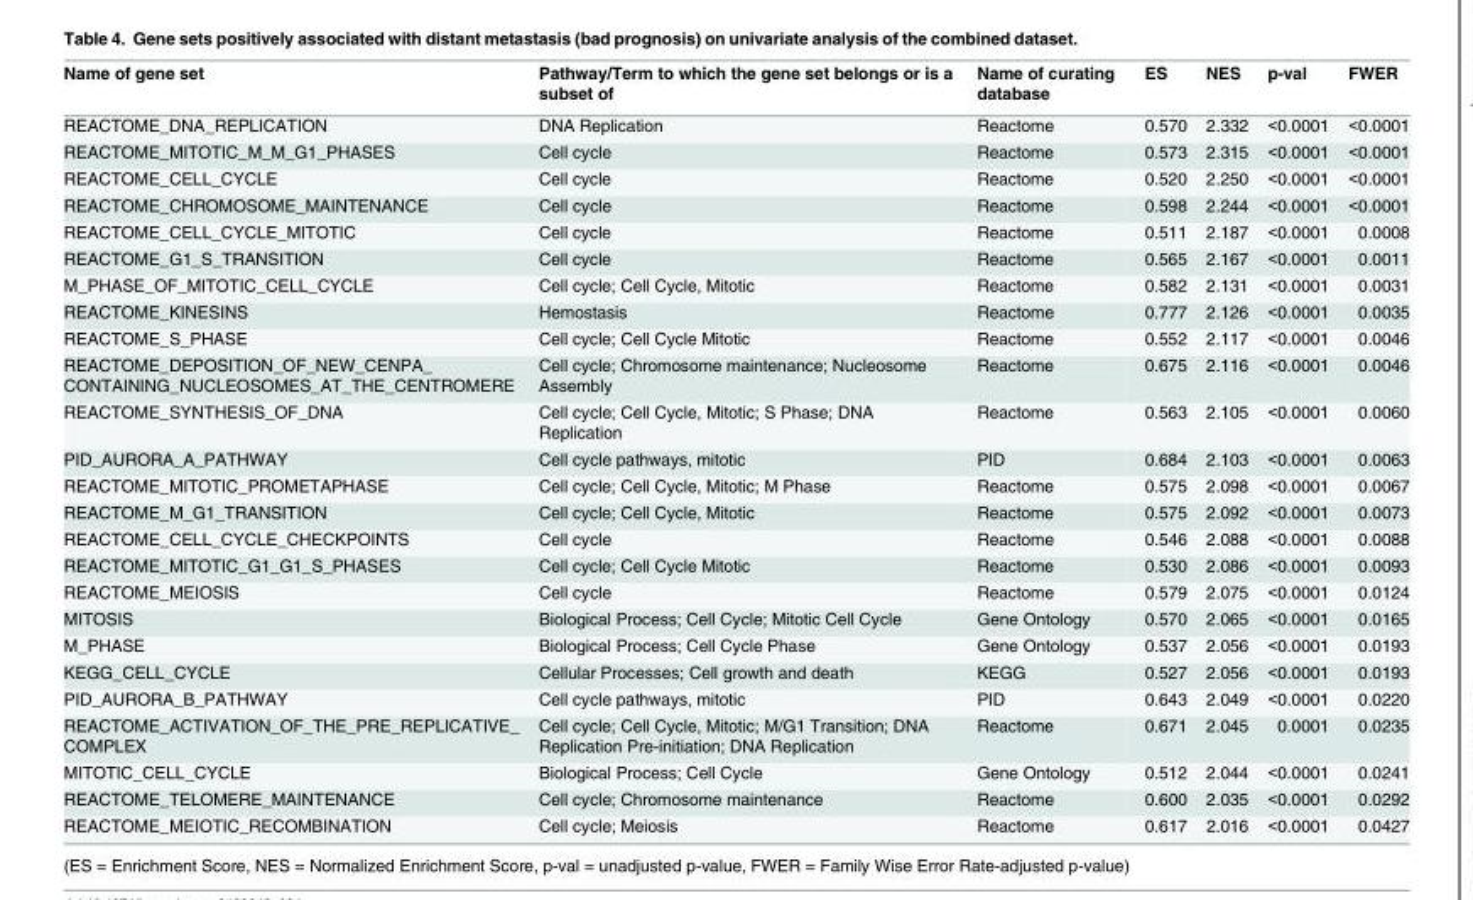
<table><thead><tr><td>Name of gene set</td><td>Pathway/Term to which the gene set belongs or is a subset of</td><td>Name of curating database</td><td>ES</td><td>NES</td><td>p-val</td><td>FWER</td></tr></thead><tbody><tr><td>REACTOME_DNA_REPLICATION</td><td>DNA Replication</td><td>Reactome</td><td>0.570</td><td>2.332</td><td>&lt;0.0001</td><td>&lt;0.0001</td></tr><tr><td>REACTOME_MITOTIC_M_M_G1_PHASES</td><td>Cell cycle</td><td>Reactome</td><td>0.573</td><td>2.315</td><td>&lt;0.0001</td><td>&lt;0.0001</td></tr><tr><td>REACTOME_CELL_CYCLE</td><td>Cell cycle</td><td>Reactome</td><td>0.520</td><td>2.250</td><td>&lt;0.0001</td><td>&lt;0.0001</td></tr><tr><td>REACTOME_CHROMOSOME_MAINTENANCE</td><td>Cell cycle</td><td>Reactome</td><td>0.598</td><td>2.244</td><td>&lt;0.0001</td><td>&lt;0.0001</td></tr><tr><td>REACTOME_CELL_CYCLE_MITOTIC</td><td>Cell cycle</td><td>Reactome</td><td>0.511</td><td>2.187</td><td>&lt;0.0001</td><td>0.0008</td></tr><tr><td>REACTOME_G1_S_TRANSITION</td><td>Cell cycle</td><td>Reactome</td><td>0.565</td><td>2.167</td><td>&lt;0.0001</td><td>0.0011</td></tr><tr><td>M_PHASE_OF_MITOTIC_CELL_CYCLE</td><td>Cell cycle; Cell Cycle, Mitotic</td><td>Reactome</td><td>0.582</td><td>2.131</td><td>&lt;0.0001</td><td>0.0031</td></tr><tr><td>REACTOME_KINESINS</td><td>Hemostasis</td><td>Reactome</td><td>0.777</td><td>2.126</td><td>&lt;0.0001</td><td>0.0035</td></tr><tr><td>REACTOME_S_PHASE</td><td>Cell cycle; Cell Cycle Mitotic</td><td>Reactome</td><td>0.552</td><td>2.117</td><td>&lt;0.0001</td><td>0.0046</td></tr><tr><td>REACTOME_DEPOSITION_OF_NEW_CENPA_ CONTAINING_NUCLEOSOMES_AT_THE_CENTROMERE</td><td>Cell cycle; Chromosome maintenance; Nucleosome Assembly</td><td>Reactome</td><td>0.675</td><td>2.116</td><td>&lt;0.0001</td><td>0.0046</td></tr><tr><td>REACTOME_SYNTHESIS_OF_DNA</td><td>Cell cycle; Cell Cycle, Mitotic; S Phase; DNA Replication</td><td>Reactome</td><td>0.563</td><td>2.105</td><td>&lt;0.0001</td><td>0.0060</td></tr><tr><td>PID_AURORA_A_PATHWAY</td><td>Cell cycle pathways, mitotic</td><td>PID</td><td>0.684</td><td>2.103</td><td>&lt;0.0001</td><td>0.0063</td></tr><tr><td>REACTOME_MITOTIC_PROMETAPHASE</td><td>Cell cycle; Cell Cycle, Mitotic; M Phase</td><td>Reactome</td><td>0.575</td><td>2.098</td><td>&lt;0.0001</td><td>0.0067</td></tr><tr><td>REACTOME_M_G1_TRANSITION</td><td>Cell cycle; Cell Cycle, Mitotic</td><td>Reactome</td><td>0.575</td><td>2.092</td><td>&lt;0.0001</td><td>0.0073</td></tr><tr><td>REACTOME_CELL_CYCLE_CHECKPOINTS</td><td>Cell cycle</td><td>Reactome</td><td>0.546</td><td>2.088</td><td>&lt;0.0001</td><td>0.0088</td></tr><tr><td>REACTOME_MITOTIC_G1_G1_S_PHASES</td><td>Cell cycle; Cell Cycle Mitotic</td><td>Reactome</td><td>0.530</td><td>2.086</td><td>&lt;0.0001</td><td>0.0093</td></tr><tr><td>REACTOME_MEIOSIS</td><td>Cell cycle</td><td>Reactome</td><td>0.579</td><td>2.075</td><td>&lt;0.0001</td><td>0.0124</td></tr><tr><td>MITOSIS</td><td>Biological Process; Cell Cycle; Mitotic Cell Cycle</td><td>Gene Ontology</td><td>0.570</td><td>2.065</td><td>&lt;0.0001</td><td>0.0165</td></tr><tr><td>M_PHASE</td><td>Biological Process; Cell Cycle Phase</td><td>Gene Ontology</td><td>0.537</td><td>2.056</td><td>&lt;0.0001</td><td>0.0193</td></tr><tr><td>KEGG_CELL_CYCLE</td><td>Cellular Processes; Cell growth and death</td><td>KEGG</td><td>0.527</td><td>2.056</td><td>&lt;0.0001</td><td>0.0193</td></tr><tr><td>PID_AURORA_B_PATHWAY</td><td>Cell cycle pathways, mitotic</td><td>PID</td><td>0.643</td><td>2.049</td><td>&lt;0.0001</td><td>0.0220</td></tr><tr><td>REACTOME_ACTIVATION_OF_THE_PRE_REPLICATIVE_ COMPLEX</td><td>Cell cycle; Cell Cycle, Mitotic; M/G1 Transition; DNA Replication Pre-initiation; DNA Replication</td><td>Reactome</td><td>0.671</td><td>2.045</td><td>0.0001</td><td>0.0235</td></tr><tr><td>MITOTIC_CELL_CYCLE</td><td>Biological Process; Cell Cycle</td><td>Gene Ontology</td><td>0.512</td><td>2.044</td><td>&lt;0.0001</td><td>0.0241</td></tr><tr><td>REACTOME_TELOMERE_MAINTENANCE</td><td>Cell cycle; Chromosome maintenance</td><td>Reactome</td><td>0.600</td><td>2.035</td><td>&lt;0.0001</td><td>0.0292</td></tr><tr><td>REACTOME_MEIOTIC_RECOMBINATION</td><td>Cell cycle; Meiosis</td><td>Reactome</td><td>0.617</td><td>2.016</td><td>&lt;0.0001</td><td>0.0427</td></tr></tbody></table>